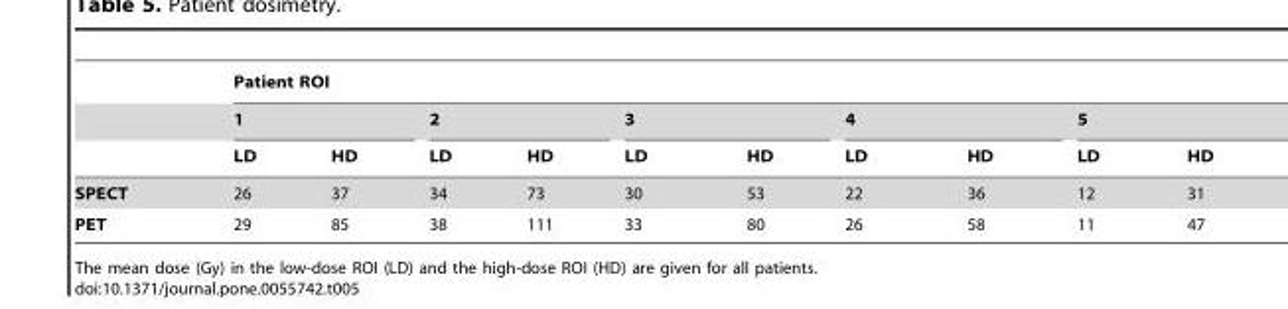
<table><thead><tr><td rowspan="3"></td><td colspan="10">Patient ROI</td></tr><tr><td colspan="2">1</td><td colspan="2">2</td><td colspan="2">3</td><td colspan="2">4</td><td colspan="2">5</td></tr><tr><td>LD</td><td>HD</td><td>LD</td><td>HD</td><td>LD</td><td>HD</td><td>LD</td><td>HD</td><td>LD</td><td>HD</td></tr></thead><tbody><tr><td>SPECT</td><td>26</td><td>37</td><td>34</td><td>73</td><td>30</td><td>53</td><td>22</td><td>36</td><td>12</td><td>31</td></tr><tr><td>PET</td><td>29</td><td>85</td><td>38</td><td>111</td><td>33</td><td>80</td><td>26</td><td>58</td><td>11</td><td>47</td></tr></tbody></table>